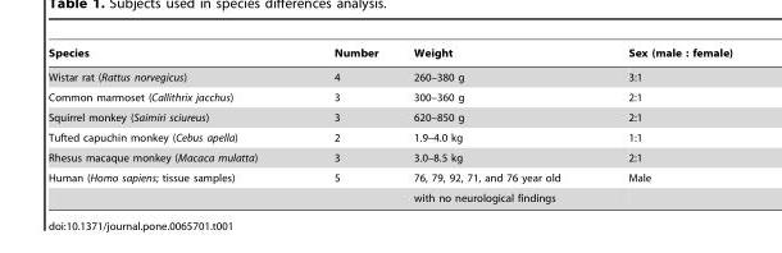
<table><thead><tr><td>Species</td><td>Number</td><td>Weight</td><td>Sex (male : female)</td></tr></thead><tbody><tr><td>Wistar rat (Rattus norvegicus)</td><td>4</td><td>260–380 g</td><td>3:1</td></tr><tr><td>Common marmoset (Callithrix jacchus)</td><td>3</td><td>300–360 g</td><td>2:1</td></tr><tr><td>Squirrel monkey (Saimiri sciureus)</td><td>3</td><td>620–850 g</td><td>2:1</td></tr><tr><td>Tufted capuchin monkey (Cebus apella)</td><td>2</td><td>1.9–4.0 kg</td><td>1:1</td></tr><tr><td>Rhesus macaque monkey (Macaca mulatta)</td><td>3</td><td>3.0–8.5 kg</td><td>2:1</td></tr><tr><td rowspan="2">Human (Homo sapiens; tissue samples)</td><td>5</td><td>76, 79, 92, 71, and 76 year old</td><td>Male</td></tr><tr><td></td><td>with no neurological findings</td><td></td></tr></tbody></table>